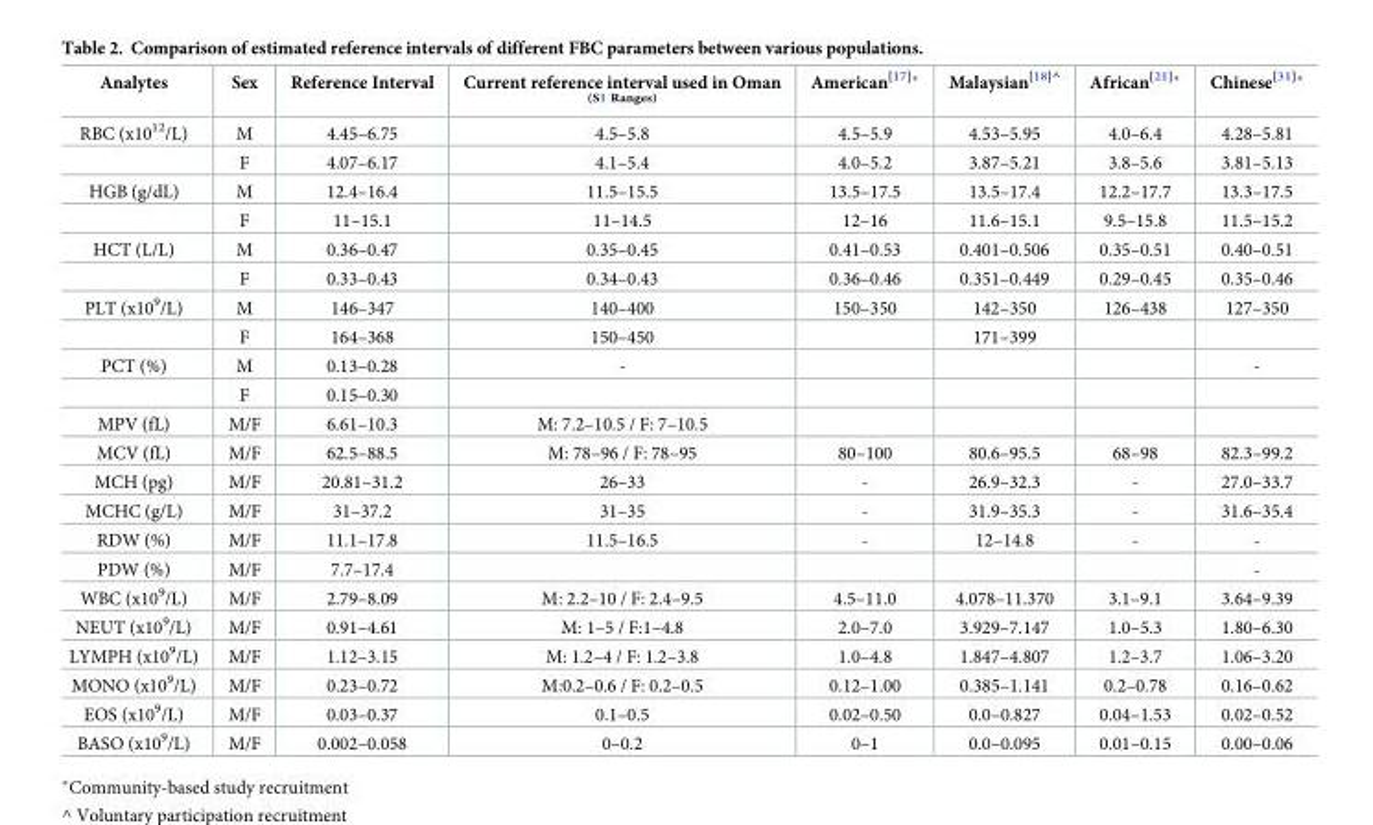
<table><thead><tr><td>Analytes</td><td>Sex</td><td>Reference Interval</td><td>Current reference interval used in Oman <sup>(S1 Ranges)</sup></td><td>American<sup>[17]</sup>*</td><td>Malaysian<sup>[18]^</sup></td><td>African<sup>[21]</sup>*</td><td>Chinese<sup>[31]</sup>*</td></tr></thead><tbody><tr><td rowspan="2">RBC (x10<sup>12</sup>/L)</td><td>M</td><td>4.45–6.75</td><td>4.5–5.8</td><td>4.5–5.9</td><td>4.53–5.95</td><td>4.0–6.4</td><td>4.28–5.81</td></tr><tr><td>F</td><td>4.07–6.17</td><td>4.1–5.4</td><td>4.0–5.2</td><td>3.87–5.21</td><td>3.8–5.6</td><td>3.81–5.13</td></tr><tr><td rowspan="2">HGB (g/dL)</td><td>M</td><td>12.4–16.4</td><td>11.5–15.5</td><td>13.5–17.5</td><td>13.5–17.4</td><td>12.2–17.7</td><td>13.3–17.5</td></tr><tr><td>F</td><td>11–15.1</td><td>11–14.5</td><td>12–16</td><td>11.6–15.1</td><td>9.5–15.8</td><td>11.5–15.2</td></tr><tr><td rowspan="2">HCT (L/L)</td><td>M</td><td>0.36–0.47</td><td>0.35–0.45</td><td>0.41–0.53</td><td>0.401–0.506</td><td>0.35–0.51</td><td>0.40–0.51</td></tr><tr><td>F</td><td>0.33–0.43</td><td>0.34–0.43</td><td>0.36–0.46</td><td>0.351–0.449</td><td>0.29–0.45</td><td>0.35–0.46</td></tr><tr><td rowspan="2">PLT (x10<sup>9</sup>/L)</td><td>M</td><td>146–347</td><td>140–400</td><td>150–350</td><td>142–350</td><td>126–438</td><td>127–350</td></tr><tr><td>F</td><td>164–368</td><td>150–450</td><td></td><td>171–399</td><td></td><td></td></tr><tr><td rowspan="2">PCT (%)</td><td>M</td><td>0.13–0.28</td><td>-</td><td></td><td></td><td></td><td>-</td></tr><tr><td>F</td><td>0.15–0.30</td><td></td><td></td><td></td><td></td><td></td></tr><tr><td>MPV (fL)</td><td>M/F</td><td>6.61–10.3</td><td>M: 7.2–10.5 / F: 7–10.5</td><td></td><td></td><td></td><td></td></tr><tr><td>MCV (fL)</td><td>M/F</td><td>62.5–88.5</td><td>M: 78–96 / F: 78–95</td><td>80–100</td><td>80.6–95.5</td><td>68–98</td><td>82.3–99.2</td></tr><tr><td>MCH (pg)</td><td>M/F</td><td>20.81–31.2</td><td>26–33</td><td>-</td><td>26.9–32.3</td><td>-</td><td>27.0–33.7</td></tr><tr><td>MCHC (g/L)</td><td>M/F</td><td>31–37.2</td><td>31–35</td><td>-</td><td>31.9–35.3</td><td>-</td><td>31.6–35.4</td></tr><tr><td>RDW (%)</td><td>M/F</td><td>11.1–17.8</td><td>11.5–16.5</td><td>-</td><td>12–14.8</td><td>-</td><td>-</td></tr><tr><td>PDW (%)</td><td>M/F</td><td>7.7–17.4</td><td></td><td></td><td></td><td></td><td>-</td></tr><tr><td>WBC (x10<sup>9</sup>/L)</td><td>M/F</td><td>2.79–8.09</td><td>M: 2.2–10 / F: 2.4–9.5</td><td>4.5–11.0</td><td>4.078–11.370</td><td>3.1–9.1</td><td>3.64–9.39</td></tr><tr><td>NEUT (x10<sup>9</sup>/L)</td><td>M/F</td><td>0.91–4.61</td><td>M: 1–5 / F:1–4.8</td><td>2.0–7.0</td><td>3.929–7.147</td><td>1.0–5.3</td><td>1.80–6.30</td></tr><tr><td>LYMPH (x10<sup>9</sup>/L)</td><td>M/F</td><td>1.12–3.15</td><td>M: 1.2–4 / F: 1.2–3.8</td><td>1.0–4.8</td><td>1.847–4.807</td><td>1.2–3.7</td><td>1.06–3.20</td></tr><tr><td>MONO (x10<sup>9</sup>/L)</td><td>M/F</td><td>0.23–0.72</td><td>M:0.2–0.6 / F: 0.2–0.5</td><td>0.12–1.00</td><td>0.385–1.141</td><td>0.2–0.78</td><td>0.16–0.62</td></tr><tr><td>EOS (x10<sup>9</sup>/L)</td><td>M/F</td><td>0.03–0.37</td><td>0.1–0.5</td><td>0.02–0.50</td><td>0.0–0.827</td><td>0.04–1.53</td><td>0.02–0.52</td></tr><tr><td>BASO (x10<sup>9</sup>/L)</td><td>M/F</td><td>0.002–0.058</td><td>0–0.2</td><td>0–1</td><td>0.0–0.095</td><td>0.01–0.15</td><td>0.00–0.06</td></tr></tbody></table>